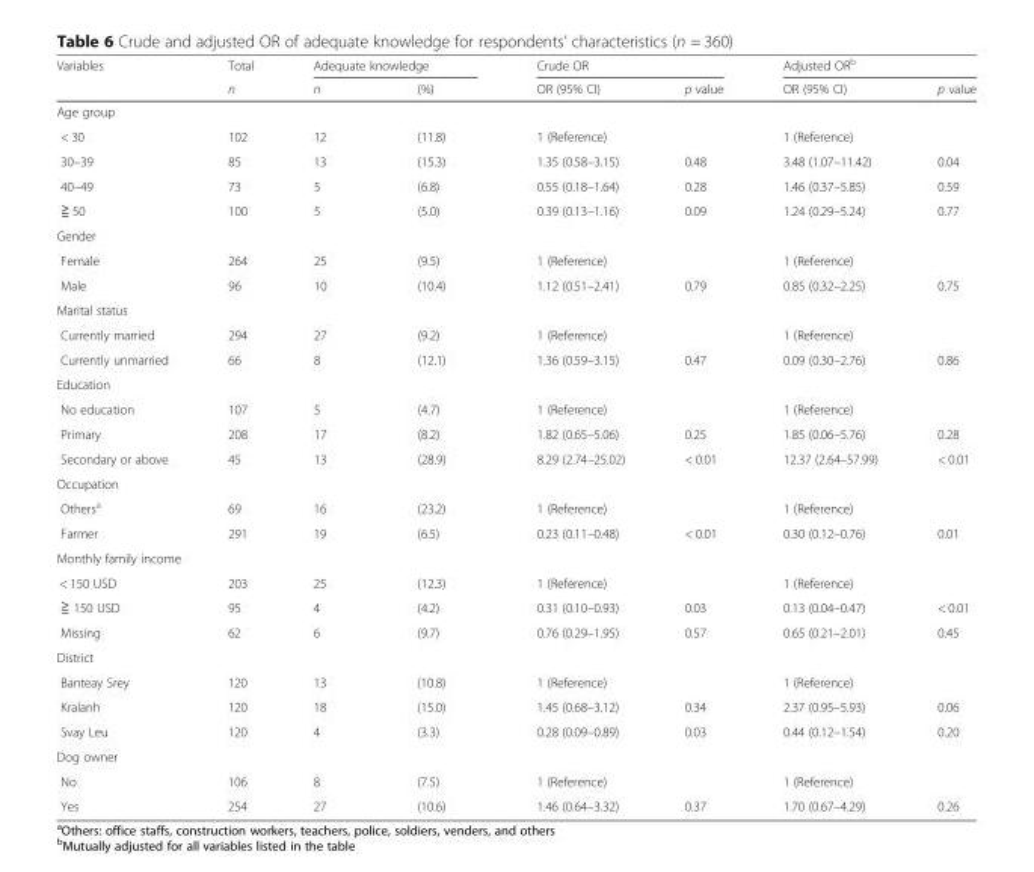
<table><thead><tr><td rowspan="2">Variables</td><td rowspan="2">Total n</td><td colspan="2">Adequate knowledge</td><td colspan="2">Crude OR</td><td colspan="2">Adjusted OR<sup>b</sup></td></tr><tr><td>n</td><td>(%)</td><td>OR (95% CI)</td><td>p value</td><td>OR (95% CI)</td><td>p value</td></tr></thead><tbody><tr><td colspan="8">Age group</td></tr><tr><td>&lt; 30</td><td>102</td><td>12</td><td>(11.8)</td><td>1 (Reference)</td><td></td><td>1 (Reference)</td><td></td></tr><tr><td>30–39</td><td>85</td><td>13</td><td>(15.3)</td><td>1.35 (0.58–3.15)</td><td>0.48</td><td>3.48 (1.07–11.42)</td><td>0.04</td></tr><tr><td>40–49</td><td>73</td><td>5</td><td>(6.8)</td><td>0.55 (0.18–1.64)</td><td>0.28</td><td>1.46 (0.37–5.85)</td><td>0.59</td></tr><tr><td>≧ 50</td><td>100</td><td>5</td><td>(5.0)</td><td>0.39 (0.13–1.16)</td><td>0.09</td><td>1.24 (0.29–5.24)</td><td>0.77</td></tr><tr><td colspan="8">Gender</td></tr><tr><td>Female</td><td>264</td><td>25</td><td>(9.5)</td><td>1 (Reference)</td><td></td><td>1 (Reference)</td><td></td></tr><tr><td>Male</td><td>96</td><td>10</td><td>(10.4)</td><td>1.12 (0.51–2.41)</td><td>0.79</td><td>0.85 (0.32–2.25)</td><td>0.75</td></tr><tr><td colspan="8">Marital status</td></tr><tr><td>Currently married</td><td>294</td><td>27</td><td>(9.2)</td><td>1 (Reference)</td><td></td><td>1 (Reference)</td><td></td></tr><tr><td>Currently unmarried</td><td>66</td><td>8</td><td>(12.1)</td><td>1.36 (0.59–3.15)</td><td>0.47</td><td>0.09 (0.30–2.76)</td><td>0.86</td></tr><tr><td colspan="8">Education</td></tr><tr><td>No education</td><td>107</td><td>5</td><td>(4.7)</td><td>1 (Reference)</td><td></td><td>1 (Reference)</td><td></td></tr><tr><td>Primary</td><td>208</td><td>17</td><td>(8.2)</td><td>1.82 (0.65–5.06)</td><td>0.25</td><td>1.85 (0.06–5.76)</td><td>0.28</td></tr><tr><td>Secondary or above</td><td>45</td><td>13</td><td>(28.9)</td><td>8.29 (2.74–25.02)</td><td>&lt; 0.01</td><td>12.37 (2.64–57.99)</td><td>&lt; 0.01</td></tr><tr><td colspan="8">Occupation</td></tr><tr><td>Others<sup>a</sup></td><td>69</td><td>16</td><td>(23.2)</td><td>1 (Reference)</td><td></td><td>1 (Reference)</td><td></td></tr><tr><td>Farmer</td><td>291</td><td>19</td><td>(6.5)</td><td>0.23 (0.11–0.48)</td><td>&lt; 0.01</td><td>0.30 (0.12–0.76)</td><td>0.01</td></tr><tr><td colspan="8">Monthly family income</td></tr><tr><td>&lt; 150 USD</td><td>203</td><td>25</td><td>(12.3)</td><td>1 (Reference)</td><td></td><td>1 (Reference)</td><td></td></tr><tr><td>≧ 150 USD</td><td>95</td><td>4</td><td>(4.2)</td><td>0.31 (0.10–0.93)</td><td>0.03</td><td>0.13 (0.04–0.47)</td><td>&lt; 0.01</td></tr><tr><td>Missing</td><td>62</td><td>6</td><td>(9.7)</td><td>0.76 (0.29–1.95)</td><td>0.57</td><td>0.65 (0.21–2.01)</td><td>0.45</td></tr><tr><td colspan="8">District</td></tr><tr><td>Banteay Srey</td><td>120</td><td>13</td><td>(10.8)</td><td>1 (Reference)</td><td></td><td>1 (Reference)</td><td></td></tr><tr><td>Kralanh</td><td>120</td><td>18</td><td>(15.0)</td><td>1.45 (0.68–3.12)</td><td>0.34</td><td>2.37 (0.95–5.93)</td><td>0.06</td></tr><tr><td>Svay Leu</td><td>120</td><td>4</td><td>(3.3)</td><td>0.28 (0.09–0.89)</td><td>0.03</td><td>0.44 (0.12–1.54)</td><td>0.20</td></tr><tr><td colspan="8">Dog owner</td></tr><tr><td>No</td><td>106</td><td>8</td><td>(7.5)</td><td>1 (Reference)</td><td></td><td>1 (Reference)</td><td></td></tr><tr><td>Yes</td><td>254</td><td>27</td><td>(10.6)</td><td>1.46 (0.64–3.32)</td><td>0.37</td><td>1.70 (0.67–4.29)</td><td>0.26</td></tr></tbody></table>